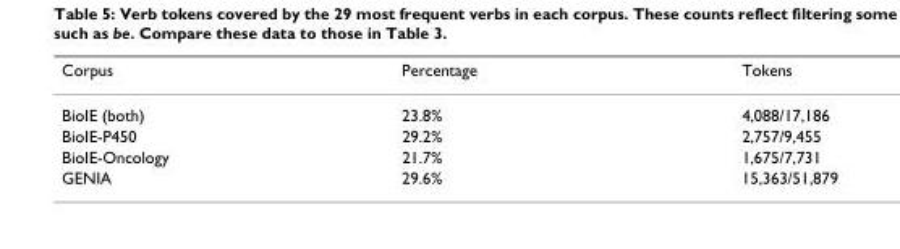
<table><thead><tr><td>Corpus</td><td>Percentage</td><td>Tokens</td></tr></thead><tbody><tr><td>BioIE (both)</td><td>23.8%</td><td>4,088/17,186</td></tr><tr><td>BioIE-P450</td><td>29.2%</td><td>2,757/9,455</td></tr><tr><td>BioIE-Oncology</td><td>21.7%</td><td>1,675/7,731</td></tr><tr><td>GENIA</td><td>29.6%</td><td>15,363/51,879</td></tr></tbody></table>